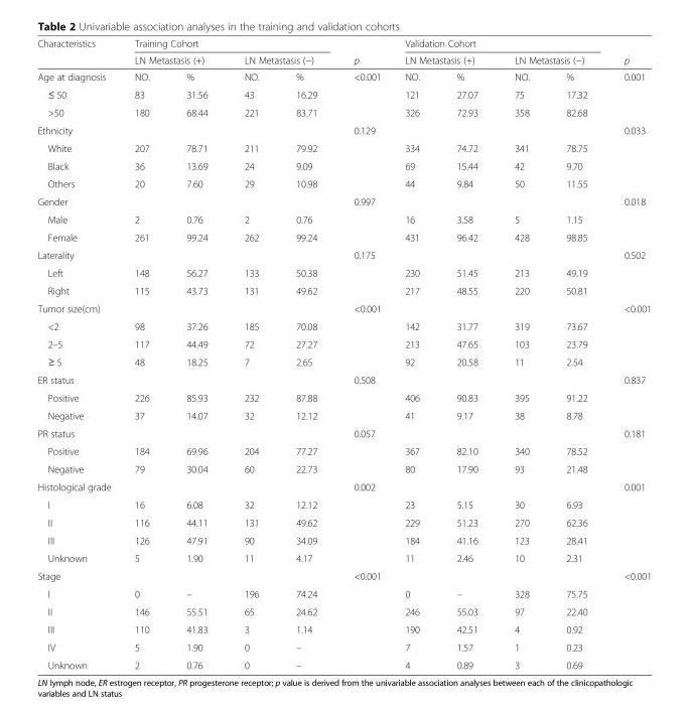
<table><thead><tr><td rowspan="3">Characteristics Age at diagnosis</td><td colspan="4">Training Cohort</td><td rowspan="3">p &lt;0.001</td><td colspan="4">Validation Cohort</td><td rowspan="3">p 0.001</td></tr><tr><td colspan="2">LN Metastasis (+)</td><td colspan="2">LN Metastasis (−)</td><td colspan="2">LN Metastasis (+)</td><td colspan="2">LN Metastasis (−)</td></tr><tr><td>NO.</td><td>%</td><td>NO.</td><td>%</td><td>NO.</td><td>%</td><td>NO.</td><td>%</td></tr></thead><tbody><tr><td>≤ 50</td><td>83</td><td>31.56</td><td>43</td><td>16.29</td><td></td><td>121</td><td>27.07</td><td>75</td><td>17.32</td><td></td></tr><tr><td>&gt;50</td><td>180</td><td>68.44</td><td>221</td><td>83.71</td><td></td><td>326</td><td>72.93</td><td>358</td><td>82.68</td><td></td></tr><tr><td>Ethnicity</td><td></td><td></td><td></td><td></td><td>0.129</td><td></td><td></td><td></td><td></td><td>0.033</td></tr><tr><td>White</td><td>207</td><td>78.71</td><td>211</td><td>79.92</td><td></td><td>334</td><td>74.72</td><td>341</td><td>78.75</td><td></td></tr><tr><td>Black</td><td>36</td><td>13.69</td><td>24</td><td>9.09</td><td></td><td>69</td><td>15.44</td><td>42</td><td>9.70</td><td></td></tr><tr><td>Others</td><td>20</td><td>7.60</td><td>29</td><td>10.98</td><td></td><td>44</td><td>9.84</td><td>50</td><td>11.55</td><td></td></tr><tr><td>Gender</td><td></td><td></td><td></td><td></td><td>0.997</td><td></td><td></td><td></td><td></td><td>0.018</td></tr><tr><td>Male</td><td>2</td><td>0.76</td><td>2</td><td>0.76</td><td></td><td>16</td><td>3.58</td><td>5</td><td>1.15</td><td></td></tr><tr><td>Female</td><td>261</td><td>99.24</td><td>262</td><td>99.24</td><td></td><td>431</td><td>96.42</td><td>428</td><td>98.85</td><td></td></tr><tr><td>Laterality</td><td></td><td></td><td></td><td></td><td>0.175</td><td></td><td></td><td></td><td></td><td>0.502</td></tr><tr><td>Left</td><td>148</td><td>56.27</td><td>133</td><td>50.38</td><td></td><td>230</td><td>51.45</td><td>213</td><td>49.19</td><td></td></tr><tr><td>Right</td><td>115</td><td>43.73</td><td>131</td><td>49.62</td><td></td><td>217</td><td>48.55</td><td>220</td><td>50.81</td><td></td></tr><tr><td>Tumor size(cm)</td><td></td><td></td><td></td><td></td><td>&lt;0.001</td><td></td><td></td><td></td><td></td><td>&lt;0.001</td></tr><tr><td>&lt;2</td><td>98</td><td>37.26</td><td>185</td><td>70.08</td><td></td><td>142</td><td>31.77</td><td>319</td><td>73.67</td><td></td></tr><tr><td>2–5</td><td>117</td><td>44.49</td><td>72</td><td>27.27</td><td></td><td>213</td><td>47.65</td><td>103</td><td>23.79</td><td></td></tr><tr><td>≥ 5</td><td>48</td><td>18.25</td><td>7</td><td>2.65</td><td></td><td>92</td><td>20.58</td><td>11</td><td>2.54</td><td></td></tr><tr><td>ER status</td><td></td><td></td><td></td><td></td><td>0.508</td><td></td><td></td><td></td><td></td><td>0.837</td></tr><tr><td>Positive</td><td>226</td><td>85.93</td><td>232</td><td>87.88</td><td></td><td>406</td><td>90.83</td><td>395</td><td>91.22</td><td></td></tr><tr><td>Negative</td><td>37</td><td>14.07</td><td>32</td><td>12.12</td><td></td><td>41</td><td>9.17</td><td>38</td><td>8.78</td><td></td></tr><tr><td>PR status</td><td></td><td></td><td></td><td></td><td>0.057</td><td></td><td></td><td></td><td></td><td>0.181</td></tr><tr><td>Positive</td><td>184</td><td>69.96</td><td>204</td><td>77.27</td><td></td><td>367</td><td>82.10</td><td>340</td><td>78.52</td><td></td></tr><tr><td>Negative</td><td>79</td><td>30.04</td><td>60</td><td>22.73</td><td></td><td>80</td><td>17.90</td><td>93</td><td>21.48</td><td></td></tr><tr><td>Histological grade</td><td></td><td></td><td></td><td></td><td>0.002</td><td></td><td></td><td></td><td></td><td>0.001</td></tr><tr><td>I</td><td>16</td><td>6.08</td><td>32</td><td>12.12</td><td></td><td>23</td><td>5.15</td><td>30</td><td>6.93</td><td></td></tr><tr><td>II</td><td>116</td><td>44.11</td><td>131</td><td>49.62</td><td></td><td>229</td><td>51.23</td><td>270</td><td>62.36</td><td></td></tr><tr><td>III</td><td>126</td><td>47.91</td><td>90</td><td>34.09</td><td></td><td>184</td><td>41.16</td><td>123</td><td>28.41</td><td></td></tr><tr><td>Unknown</td><td>5</td><td>1.90</td><td>11</td><td>4.17</td><td></td><td>11</td><td>2.46</td><td>10</td><td>2.31</td><td></td></tr><tr><td>Stage</td><td></td><td></td><td></td><td></td><td>&lt;0.001</td><td></td><td></td><td></td><td></td><td>&lt;0.001</td></tr><tr><td>I</td><td>0</td><td>–</td><td>196</td><td>74.24</td><td></td><td>0</td><td>–</td><td>328</td><td>75.75</td><td></td></tr><tr><td>II</td><td>146</td><td>55.51</td><td>65</td><td>24.62</td><td></td><td>246</td><td>55.03</td><td>97</td><td>22.40</td><td></td></tr><tr><td>III</td><td>110</td><td>41.83</td><td>3</td><td>1.14</td><td></td><td>190</td><td>42.51</td><td>4</td><td>0.92</td><td></td></tr><tr><td>IV</td><td>5</td><td>1.90</td><td>0</td><td>–</td><td></td><td>7</td><td>1.57</td><td>1</td><td>0.23</td><td></td></tr><tr><td>Unknown</td><td>2</td><td>0.76</td><td>0</td><td>–</td><td></td><td>4</td><td>0.89</td><td>3</td><td>0.69</td><td></td></tr></tbody></table>